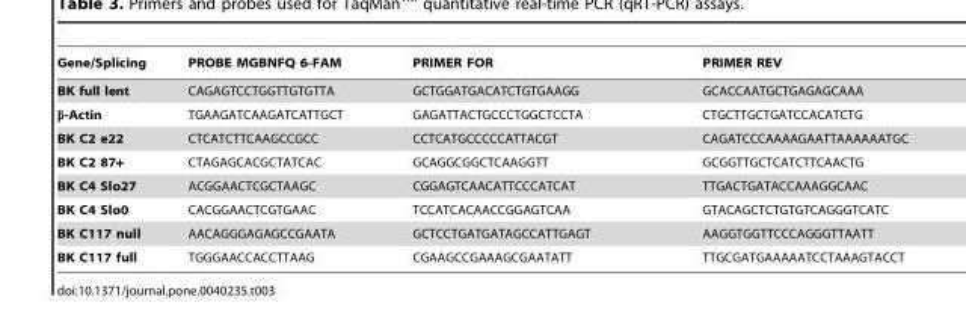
<table><thead><tr><td>Gene/Splicing</td><td>PROBE MGBNFQ 6-FAM</td><td>PRIMER FOR</td><td>PRIMER REV</td></tr></thead><tbody><tr><td>BK full lent</td><td>CAGAGTCCTGGTTGTGTTA</td><td>GCTGGATGACATCTGTGAAGG</td><td>GCACCAATGCTGAGAGCAAA</td></tr><tr><td>β-Actin</td><td>TGAAGATCAAGATCATTGCT</td><td>GAGATTACTGCCCTGGCTCCTA</td><td>CTGCTTGCTGATCCACATCTG</td></tr><tr><td>BK C2 e22</td><td>CTCATCTTCAAGCCGCC</td><td>CCTCATGCCCCCATTACGT</td><td>CAGATCCCAAAAGAATTAAAAAATGC</td></tr><tr><td>BK C2 87+</td><td>CTAGAGCACGCTATCAC</td><td>GCAGGCGGCTCAAGGTT</td><td>GCGGTTGCTCATCTTCAACTG</td></tr><tr><td>BK C4 Slo27</td><td>ACGGAACTCGCTAAGC</td><td>CGGAGTCAACATTCCCATCAT</td><td>TTGACTGATACCAAAGGCAAC</td></tr><tr><td>BK C4 Slo0</td><td>CACGGAACTCGTGAAC</td><td>TCCATCACAACCGGAGTCAA</td><td>GTACAGCTCTGTGTCAGGGTCATC</td></tr><tr><td>BK C117 null</td><td>AACAGGGAGAGCCGAATA</td><td>GCTCCTGATGATAGCCATTGAGT</td><td>AAGGTGGTTCCCAGGGTTAATT</td></tr><tr><td>BK C117 full</td><td>TGGGAACCACCTTAAG</td><td>CGAAGCCGAAAGCGAATATT</td><td>TTGCGATGAAAAATCCTAAAGTACCT</td></tr></tbody></table>